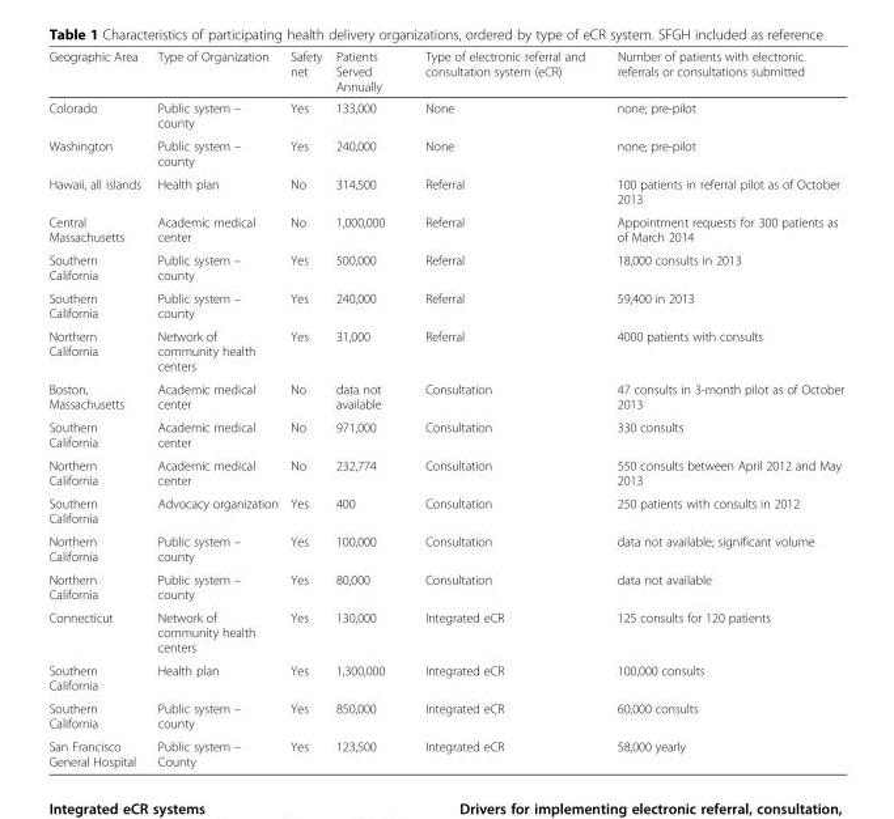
<table><thead><tr><td>Geographic Area</td><td>Type of Organization</td><td>Safety net</td><td>Patients Served Annually</td><td>Type of electronic referral and consultation system (eCR)</td><td>Number of patients with electronic referrals or consultations submitted</td></tr></thead><tbody><tr><td>Colorado</td><td>Public system – county</td><td>Yes</td><td>133,000</td><td>None</td><td>none; pre-pilot</td></tr><tr><td>Washington</td><td>Public system – county</td><td>Yes</td><td>240,000</td><td>None</td><td>none; pre-pilot</td></tr><tr><td>Hawaii, all islands</td><td>Health plan</td><td>No</td><td>314,500</td><td>Referral</td><td>100 patients in referral pilot as of October 2013</td></tr><tr><td>Central Massachusetts</td><td>Academic medical center</td><td>No</td><td>1,000,000</td><td>Referral</td><td>Appointment requests for 300 patients as of March 2014</td></tr><tr><td>Southern California</td><td>Public system – county</td><td>Yes</td><td>500,000</td><td>Referral</td><td>18,000 consults in 2013</td></tr><tr><td>Southern California</td><td>Public system – county</td><td>Yes</td><td>240,000</td><td>Referral</td><td>59,400 in 2013</td></tr><tr><td>Northern California</td><td>Network of community health centers</td><td>Yes</td><td>31,000</td><td>Referral</td><td>4000 patients with consults</td></tr><tr><td>Boston, Massachusetts</td><td>Academic medical center</td><td>No</td><td>data not available</td><td>Consultation</td><td>47 consults in 3-month pilot as of October 2013</td></tr><tr><td>Southern California</td><td>Academic medical center</td><td>No</td><td>971,000</td><td>Consultation</td><td>330 consults</td></tr><tr><td>Northern California</td><td>Academic medical center</td><td>No</td><td>232,774</td><td>Consultation</td><td>550 consults between April 2012 and May 2013</td></tr><tr><td>Southern California</td><td>Advocacy organization</td><td>Yes</td><td>400</td><td>Consultation</td><td>250 patients with consults in 2012</td></tr><tr><td>Northern California</td><td>Public system – county</td><td>Yes</td><td>100,000</td><td>Consultation</td><td>data not available; significant volume</td></tr><tr><td>Northern California</td><td>Public system – county</td><td>Yes</td><td>80,000</td><td>Consultation</td><td>data not available</td></tr><tr><td>Connecticut</td><td>Network of community health centers</td><td>Yes</td><td>130,000</td><td>Integrated eCR</td><td>125 consults for 120 patients</td></tr><tr><td>Southern California</td><td>Health plan</td><td>Yes</td><td>1,300,000</td><td>Integrated eCR</td><td>100,000 consults</td></tr><tr><td>Southern California</td><td>Public system – county</td><td>Yes</td><td>850,000</td><td>Integrated eCR</td><td>60,000 consults</td></tr><tr><td>San Francisco General Hospital</td><td>Public system – County</td><td>Yes</td><td>123,500</td><td>Integrated eCR</td><td>58,000 yearly</td></tr></tbody></table>